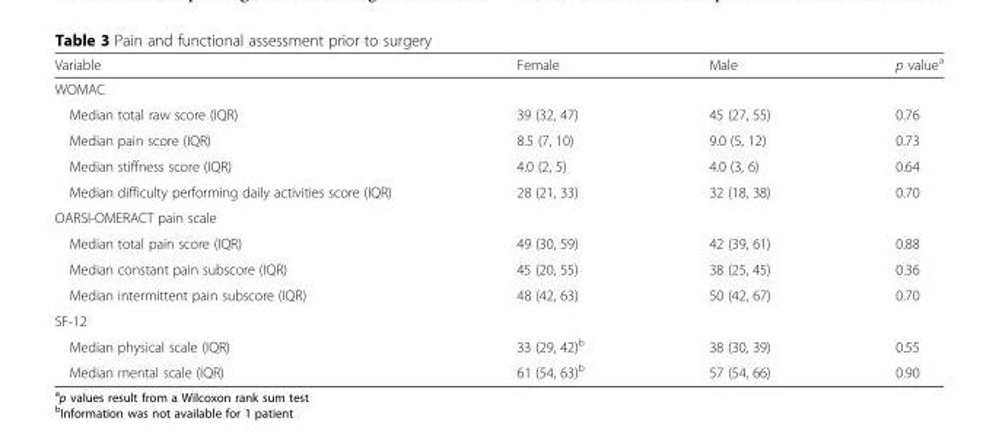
<table><thead><tr><td>Variable</td><td>Female</td><td>Male</td><td>p value<sup>a</sup></td></tr></thead><tbody><tr><td colspan="4">WOMAC</td></tr><tr><td>Median total raw score (IQR)</td><td>39 (32, 47)</td><td>45 (27, 55)</td><td>0.76</td></tr><tr><td>Median pain score (IQR)</td><td>8.5 (7, 10)</td><td>9.0 (5, 12)</td><td>0.73</td></tr><tr><td>Median stiffness score (IQR)</td><td>4.0 (2, 5)</td><td>4.0 (3, 6)</td><td>0.64</td></tr><tr><td>Median difficulty performing daily activities score (IQR)</td><td>28 (21, 33)</td><td>32 (18, 38)</td><td>0.70</td></tr><tr><td colspan="4">OARSI-OMERACT pain scale</td></tr><tr><td>Median total pain score (IQR)</td><td>49 (30, 59)</td><td>42 (39, 61)</td><td>0.88</td></tr><tr><td>Median constant pain subscore (IQR)</td><td>45 (20, 55)</td><td>38 (25, 45)</td><td>0.36</td></tr><tr><td>Median intermittent pain subscore (IQR)</td><td>48 (42, 63)</td><td>50 (42, 67)</td><td>0.70</td></tr><tr><td colspan="4">SF-12</td></tr><tr><td>Median physical scale (IQR)</td><td>33 (29, 42)<sup>b</sup></td><td>38 (30, 39)</td><td>0.55</td></tr><tr><td>Median mental scale (IQR)</td><td>61 (54, 63)<sup>b</sup></td><td>57 (54, 66)</td><td>0.90</td></tr></tbody></table>